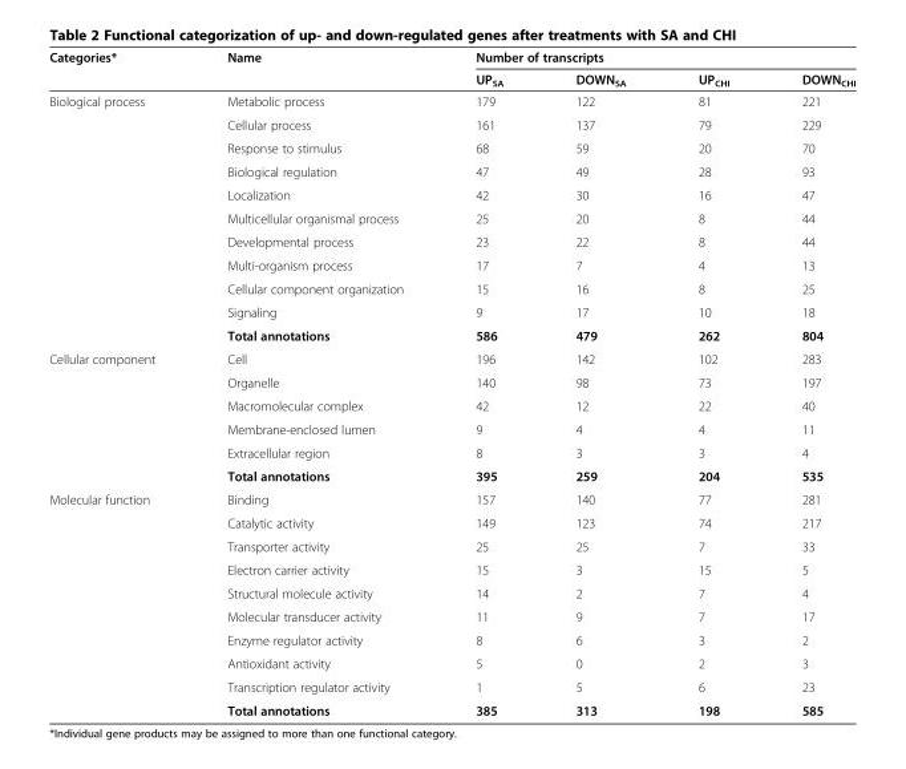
<table><thead><tr><td rowspan="2">Categories*</td><td rowspan="2">Name</td><td colspan="4">Number of transcripts</td></tr><tr><td>UP<sub>SA</sub></td><td>DOWN<sub>SA</sub></td><td>UP<sub>CHI</sub></td><td>DOWN<sub>CHI</sub></td></tr></thead><tbody><tr><td rowspan="11">Biological process</td><td>Metabolic process</td><td>179</td><td>122</td><td>81</td><td>221</td></tr><tr><td>Cellular process</td><td>161</td><td>137</td><td>79</td><td>229</td></tr><tr><td>Response to stimulus</td><td>68</td><td>59</td><td>20</td><td>70</td></tr><tr><td>Biological regulation</td><td>47</td><td>49</td><td>28</td><td>93</td></tr><tr><td>Localization</td><td>42</td><td>30</td><td>16</td><td>47</td></tr><tr><td>Multicellular organismal process</td><td>25</td><td>20</td><td>8</td><td>44</td></tr><tr><td>Developmental process</td><td>23</td><td>22</td><td>8</td><td>44</td></tr><tr><td>Multi-organism process</td><td>17</td><td>7</td><td>4</td><td>13</td></tr><tr><td>Cellular component organization</td><td>15</td><td>16</td><td>8</td><td>25</td></tr><tr><td>Signaling</td><td>9</td><td>17</td><td>10</td><td>18</td></tr><tr><td>Total annotations</td><td>586</td><td>479</td><td>262</td><td>804</td></tr><tr><td rowspan="6">Cellular component</td><td>Cell</td><td>196</td><td>142</td><td>102</td><td>283</td></tr><tr><td>Organelle</td><td>140</td><td>98</td><td>73</td><td>197</td></tr><tr><td>Macromolecular complex</td><td>42</td><td>12</td><td>22</td><td>40</td></tr><tr><td>Membrane-enclosed lumen</td><td>9</td><td>4</td><td>4</td><td>11</td></tr><tr><td>Extracellular region</td><td>8</td><td>3</td><td>3</td><td>4</td></tr><tr><td>Total annotations</td><td>395</td><td>259</td><td>204</td><td>535</td></tr><tr><td rowspan="10">Molecular function</td><td>Binding</td><td>157</td><td>140</td><td>77</td><td>281</td></tr><tr><td>Catalytic activity</td><td>149</td><td>123</td><td>74</td><td>217</td></tr><tr><td>Transporter activity</td><td>25</td><td>25</td><td>7</td><td>33</td></tr><tr><td>Electron carrier activity</td><td>15</td><td>3</td><td>15</td><td>5</td></tr><tr><td>Structural molecule activity</td><td>14</td><td>2</td><td>7</td><td>4</td></tr><tr><td>Molecular transducer activity</td><td>11</td><td>9</td><td>7</td><td>17</td></tr><tr><td>Enzyme regulator activity</td><td>8</td><td>6</td><td>3</td><td>2</td></tr><tr><td>Antioxidant activity</td><td>5</td><td>0</td><td>2</td><td>3</td></tr><tr><td>Transcription regulator activity</td><td>1</td><td>5</td><td>6</td><td>23</td></tr><tr><td>Total annotations</td><td>385</td><td>313</td><td>198</td><td>585</td></tr></tbody></table>